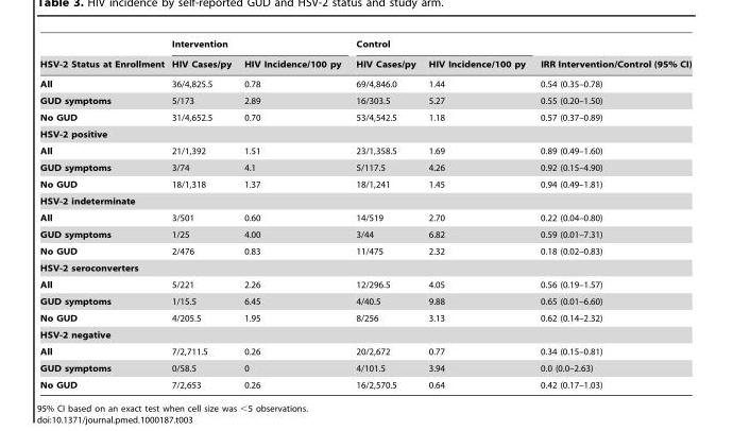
<table><thead><tr><td rowspan="2">HSV-2 Status at Enrollment</td><td colspan="2">Intervention</td><td colspan="2">Control</td><td rowspan="2">IRR Intervention/Control (95% CI)</td></tr><tr><td>HIV Cases/py</td><td>HIV Incidence/100 py</td><td>HIV Cases/py</td><td>HIV Incidence/100 py</td></tr></thead><tbody><tr><td>All</td><td>36/4,825.5</td><td>0.78</td><td>69/4,846.0</td><td>1.44</td><td>0.54 (0.35–0.78)</td></tr><tr><td>GUD symptoms</td><td>5/173</td><td>2.89</td><td>16/303.5</td><td>5.27</td><td>0.55 (0.20–1.50)</td></tr><tr><td>No GUD</td><td>31/4,652.5</td><td>0.70</td><td>53/4,542.5</td><td>1.18</td><td>0.57 (0.37–0.89)</td></tr><tr><td colspan="6">HSV-2 positive</td></tr><tr><td>All</td><td>21/1,392</td><td>1.51</td><td>23/1,358.5</td><td>1.69</td><td>0.89 (0.49–1.60)</td></tr><tr><td>GUD symptoms</td><td>3/74</td><td>4.1</td><td>5/117.5</td><td>4.26</td><td>0.92 (0.15–4.90)</td></tr><tr><td>No GUD</td><td>18/1,318</td><td>1.37</td><td>18/1,241</td><td>1.45</td><td>0.94 (0.49–1.81)</td></tr><tr><td colspan="6">HSV-2 indeterminate</td></tr><tr><td>All</td><td>3/501</td><td>0.60</td><td>14/519</td><td>2.70</td><td>0.22 (0.04–0.80)</td></tr><tr><td>GUD symptoms</td><td>1/25</td><td>4.00</td><td>3/44</td><td>6.82</td><td>0.59 (0.01–7.31)</td></tr><tr><td>No GUD</td><td>2/476</td><td>0.83</td><td>11/475</td><td>2.32</td><td>0.18 (0.02–0.83)</td></tr><tr><td colspan="6">HSV-2 seroconverters</td></tr><tr><td>All</td><td>5/221</td><td>2.26</td><td>12/296.5</td><td>4.05</td><td>0.56 (0.19–1.57)</td></tr><tr><td>GUD symptoms</td><td>1/15.5</td><td>6.45</td><td>4/40.5</td><td>9.88</td><td>0.65 (0.01–6.60)</td></tr><tr><td>No GUD</td><td>4/205.5</td><td>1.95</td><td>8/256</td><td>3.13</td><td>0.62 (0.14–2.32)</td></tr><tr><td colspan="6">HSV-2 negative</td></tr><tr><td>All</td><td>7/2,711.5</td><td>0.26</td><td>20/2,672</td><td>0.77</td><td>0.34 (0.15–0.81)</td></tr><tr><td>GUD symptoms</td><td>0/58.5</td><td>0</td><td>4/101.5</td><td>3.94</td><td>0.0 (0.0–2.63)</td></tr><tr><td>No GUD</td><td>7/2,653</td><td>0.26</td><td>16/2,570.5</td><td>0.64</td><td>0.42 (0.17–1.03)</td></tr></tbody></table>